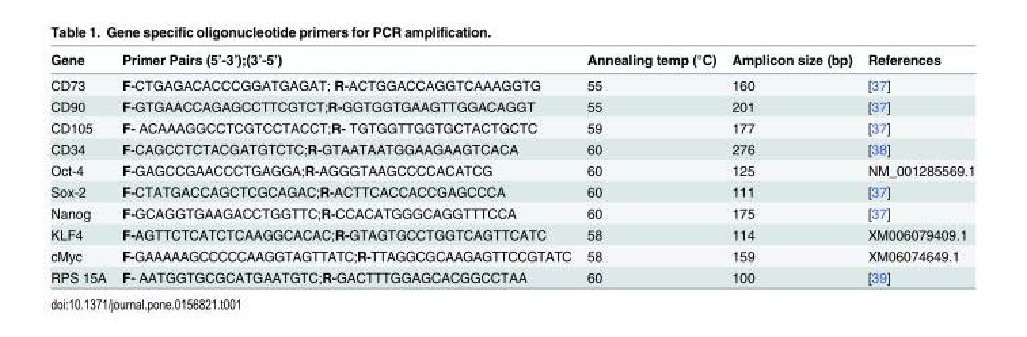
<table><thead><tr><td>Gene</td><td>Primer Pairs (5’-3’);(3’-5’)</td><td>Annealing temp (°C)</td><td>Amplicon size (bp)</td><td>References</td></tr></thead><tbody><tr><td>CD73</td><td>F-CTGAGACACCCGGATGAGAT; R-ACTGGACCAGGTCAAAGGTG</td><td>55</td><td>160</td><td>[37]</td></tr><tr><td>CD90</td><td>F-GTGAACCAGAGCCTTCGTCT;R-GGTGGTGAAGTTGGACAGGT</td><td>55</td><td>201</td><td>[37]</td></tr><tr><td>CD105</td><td>F- ACAAAGGCCTCGTCCTACCT;R- TGTGGTTGGTGCTACTGCTC</td><td>59</td><td>177</td><td>[37]</td></tr><tr><td>CD34</td><td>F-CAGCCTCTACGATGTCTC;R-GTAATAATGGAAGAAGTCACA</td><td>60</td><td>276</td><td>[38]</td></tr><tr><td>Oct-4</td><td>F-GAGCCGAACCCTGAGGA;R-AGGGTAAGCCCCACATCG</td><td>60</td><td>125</td><td>NM_001285569.1</td></tr><tr><td>Sox-2</td><td>F-CTATGACCAGCTCGCAGAC;R-ACTTCACCACCGAGCCCA</td><td>60</td><td>111</td><td>[37]</td></tr><tr><td>Nanog</td><td>F-GCAGGTGAAGACCTGGTTC;R-CCACATGGGCAGGTTTCCA</td><td>60</td><td>175</td><td>[37]</td></tr><tr><td>KLF4</td><td>F-AGTTCTCATCTCAAGGCACAC;R-GTAGTGCCTGGTCAGTTCATC</td><td>58</td><td>114</td><td>XM006079409.1</td></tr><tr><td>cMyc</td><td>F-GAAAAAGCCCCCAAGGTAGTTATC;R-TTAGGCGCAAGAGTTCCGTATC</td><td>58</td><td>159</td><td>XM06074649.1</td></tr><tr><td>RPS 15A</td><td>F- AATGGTGCGCATGAATGTC;R-GACTTTGGAGCACGGCCTAA</td><td>60</td><td>100</td><td>[39]</td></tr></tbody></table>